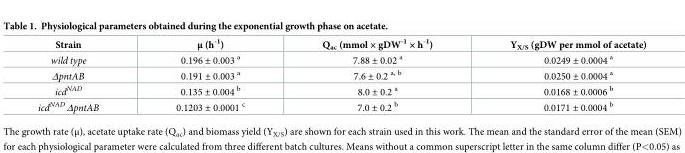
<table><thead><tr><td>Strain</td><td>μ (h<sup>-1</sup>)</td><td>Q<sub>ac</sub> (mmol × gDW<sup>-1</sup> × h<sup>-1</sup>)</td><td>Y<sub>X/S</sub> (gDW per mmol of acetate)</td></tr></thead><tbody><tr><td>wild type</td><td>0.196 ± 0.003 <sup>a</sup></td><td>7.88 ± 0.02 <sup>a</sup></td><td>0.0249 ± 0.0004 <sup>a</sup></td></tr><tr><td>ΔpntAB</td><td>0.191 ± 0.003 <sup>a</sup></td><td>7.6 ± 0.2 <sup>a, b</sup></td><td>0.0250 ± 0.0004 <sup>a</sup></td></tr><tr><td>icd<sup>NAD</sup></td><td>0.135 ± 0.004 <sup>b</sup></td><td>8.0 ± 0.2 <sup>a</sup></td><td>0.0168 ± 0.0006 <sup>b</sup></td></tr><tr><td>icd<sup>NAD</sup> ΔpntAB</td><td>0.1203 ± 0.0001 <sup>c</sup></td><td>7.0 ± 0.2 <sup>b</sup></td><td>0.0171 ± 0.0004 <sup>b</sup></td></tr></tbody></table>